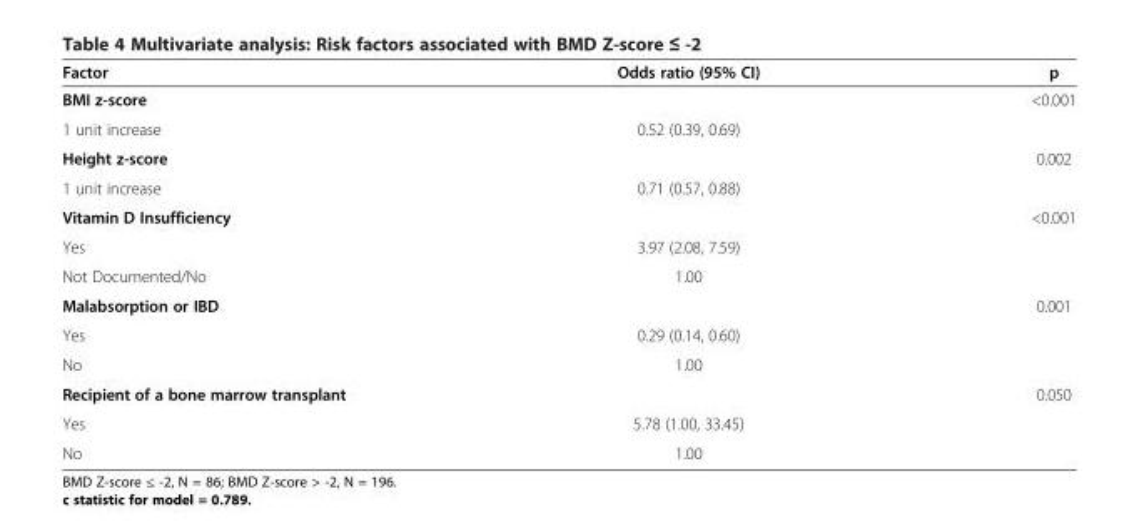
<table><thead><tr><td>Factor</td><td>Odds ratio (95% CI)</td><td>p</td></tr></thead><tbody><tr><td>BMI z-score</td><td></td><td>&lt;0.001</td></tr><tr><td>1 unit increase</td><td>0.52 (0.39, 0.69)</td><td></td></tr><tr><td>Height z-score</td><td></td><td>0.002</td></tr><tr><td>1 unit increase</td><td>0.71 (0.57, 0.88)</td><td></td></tr><tr><td>Vitamin D Insufficiency</td><td></td><td>&lt;0.001</td></tr><tr><td>Yes</td><td>3.97 (2.08, 7.59)</td><td></td></tr><tr><td>Not Documented/No</td><td>1.00</td><td></td></tr><tr><td>Malabsorption or IBD</td><td></td><td>0.001</td></tr><tr><td>Yes</td><td>0.29 (0.14, 0.60)</td><td></td></tr><tr><td>No</td><td>1.00</td><td></td></tr><tr><td>Recipient of a bone marrow transplant</td><td></td><td>0.050</td></tr><tr><td>Yes</td><td>5.78 (1.00, 33.45)</td><td></td></tr><tr><td>No</td><td>1.00</td><td></td></tr></tbody></table>